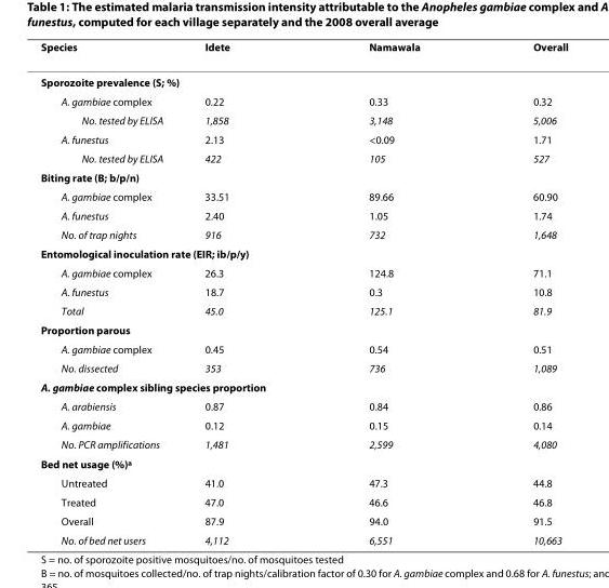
<table><thead><tr><td>Species</td><td>Idete</td><td>Namawala</td><td>Overall</td></tr></thead><tbody><tr><td colspan="4">Sporozoite prevalence (S; %)</td></tr><tr><td>A. gambiae complex</td><td>0.22</td><td>0.33</td><td>0.32</td></tr><tr><td>No. tested by ELISA</td><td>1,858</td><td>3,148</td><td>5,006</td></tr><tr><td>A. funestus</td><td>2.13</td><td>&lt;0.09</td><td>1.71</td></tr><tr><td>No. tested by ELISA</td><td>422</td><td>105</td><td>527</td></tr><tr><td colspan="4">Biting rate (B; b/p/n)</td></tr><tr><td>A. gambiae complex</td><td>33.51</td><td>89.66</td><td>60.90</td></tr><tr><td>A. funestus</td><td>2.40</td><td>1.05</td><td>1.74</td></tr><tr><td>No. of trap nights</td><td>916</td><td>732</td><td>1,648</td></tr><tr><td colspan="4">Entomological inoculation rate (EIR; ib/p/y)</td></tr><tr><td>A. gambiae complex</td><td>26.3</td><td>124.8</td><td>71.1</td></tr><tr><td>A. funestus</td><td>18.7</td><td>0.3</td><td>10.8</td></tr><tr><td>Total</td><td>45.0</td><td>125.1</td><td>81.9</td></tr><tr><td colspan="4">Proportion parous</td></tr><tr><td>A. gambiae complex</td><td>0.45</td><td>0.54</td><td>0.51</td></tr><tr><td>No. dissected</td><td>353</td><td>736</td><td>1,089</td></tr><tr><td colspan="4">A. gambiae complex sibling species proportion</td></tr><tr><td>A. arabiensis</td><td>0.87</td><td>0.84</td><td>0.86</td></tr><tr><td>A. gambiae</td><td>0.12</td><td>0.15</td><td>0.14</td></tr><tr><td>No. PCR amplifications</td><td>1,481</td><td>2,599</td><td>4,080</td></tr><tr><td colspan="4">Bed net usage (%)<sup>a</sup></td></tr><tr><td>Untreated</td><td>41.0</td><td>47.3</td><td>44.8</td></tr><tr><td>Treated</td><td>47.0</td><td>46.6</td><td>46.8</td></tr><tr><td>Overall</td><td>87.9</td><td>94.0</td><td>91.5</td></tr><tr><td>No. of bed net users</td><td>4,112</td><td>6,551</td><td>10,663</td></tr></tbody></table>